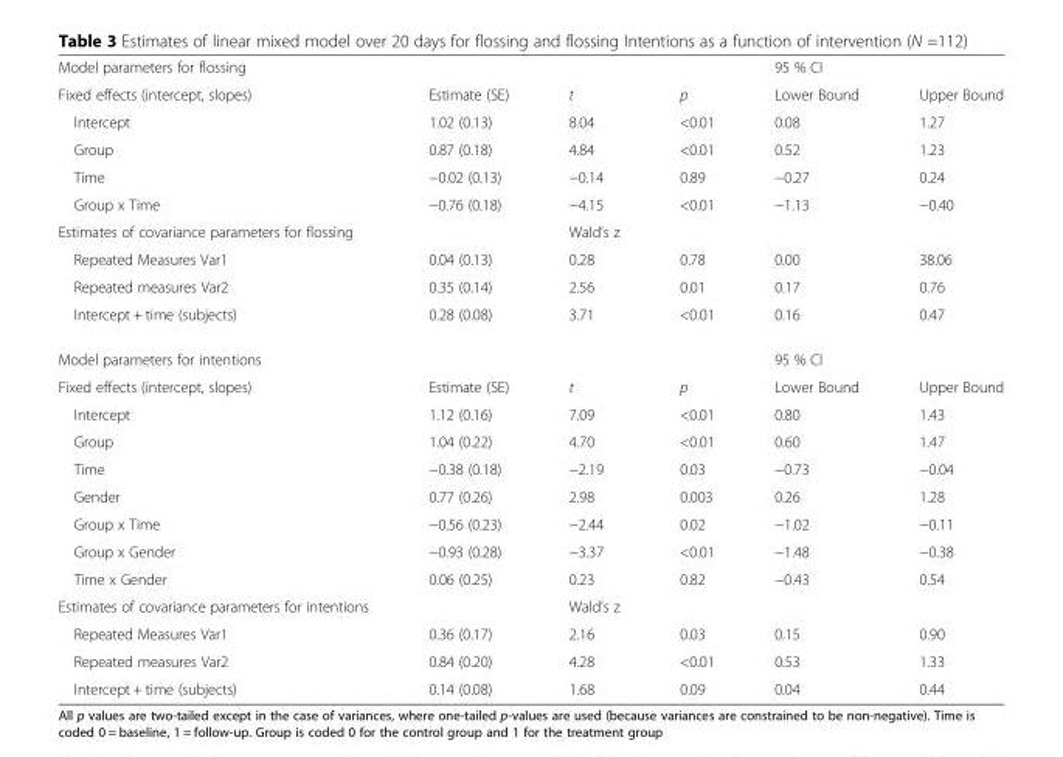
<table><tbody><tr><td>Model parameters for flossing</td><td></td><td></td><td></td><td colspan="2">95 % CI</td></tr><tr><td>Fixed effects (intercept, slopes)</td><td>Estimate (SE)</td><td>t</td><td>p</td><td>Lower Bound</td><td>Upper Bound</td></tr><tr><td>Intercept</td><td>1.02 (0.13)</td><td>8.04</td><td>&lt;0.01</td><td>0.08</td><td>1.27</td></tr><tr><td>Group</td><td>0.87 (0.18)</td><td>4.84</td><td>&lt;0.01</td><td>0.52</td><td>1.23</td></tr><tr><td>Time</td><td>−0.02 (0.13)</td><td>−0.14</td><td>0.89</td><td>−0.27</td><td>0.24</td></tr><tr><td>Group x Time</td><td>−0.76 (0.18)</td><td>−4.15</td><td>&lt;0.01</td><td>−1.13</td><td>−0.40</td></tr><tr><td>Estimates of covariance parameters for flossing</td><td></td><td>Wald’s z</td><td></td><td></td><td></td></tr><tr><td>Repeated Measures Var1</td><td>0.04 (0.13)</td><td>0.28</td><td>0.78</td><td>0.00</td><td>38.06</td></tr><tr><td>Repeated measures Var2</td><td>0.35 (0.14)</td><td>2.56</td><td>0.01</td><td>0.17</td><td>0.76</td></tr><tr><td>Intercept + time (subjects)</td><td>0.28 (0.08)</td><td>3.71</td><td>&lt;0.01</td><td>0.16</td><td>0.47</td></tr><tr><td>Model parameters for intentions</td><td></td><td></td><td></td><td colspan="2">95 % CI</td></tr><tr><td>Fixed effects (intercept, slopes)</td><td>Estimate (SE)</td><td>t</td><td>p</td><td>Lower Bound</td><td>Upper Bound</td></tr><tr><td>Intercept</td><td>1.12 (0.16)</td><td>7.09</td><td>&lt;0.01</td><td>0.80</td><td>1.43</td></tr><tr><td>Group</td><td>1.04 (0.22)</td><td>4.70</td><td>&lt;0.01</td><td>0.60</td><td>1.47</td></tr><tr><td>Time</td><td>−0.38 (0.18)</td><td>−2.19</td><td>0.03</td><td>−0.73</td><td>−0.04</td></tr><tr><td>Gender</td><td>0.77 (0.26)</td><td>2.98</td><td>0.003</td><td>0.26</td><td>1.28</td></tr><tr><td>Group x Time</td><td>−0.56 (0.23)</td><td>−2.44</td><td>0.02</td><td>−1.02</td><td>−0.11</td></tr><tr><td>Group x Gender</td><td>−0.93 (0.28)</td><td>−3.37</td><td>&lt;0.01</td><td>−1.48</td><td>−0.38</td></tr><tr><td>Time x Gender</td><td>0.06 (0.25)</td><td>0.23</td><td>0.82</td><td>−0.43</td><td>0.54</td></tr><tr><td>Estimates of covariance parameters for intentions</td><td></td><td>Wald’s z</td><td></td><td></td><td></td></tr><tr><td>Repeated Measures Var1</td><td>0.36 (0.17)</td><td>2.16</td><td>0.03</td><td>0.15</td><td>0.90</td></tr><tr><td>Repeated measures Var2</td><td>0.84 (0.20)</td><td>4.28</td><td>&lt;0.01</td><td>0.53</td><td>1.33</td></tr><tr><td>Intercept + time (subjects)</td><td>0.14 (0.08)</td><td>1.68</td><td>0.09</td><td>0.04</td><td>0.44</td></tr></tbody></table>